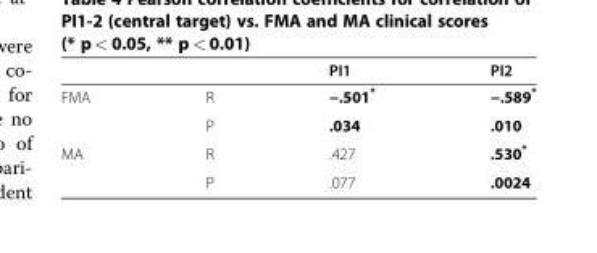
<table><thead><tr><td></td><td></td><td>PI1</td><td>PI2</td></tr></thead><tbody><tr><td rowspan="2">FMA</td><td>R</td><td>−.501*</td><td>−.589*</td></tr><tr><td>P</td><td>.034</td><td>.010</td></tr><tr><td rowspan="2">MA</td><td>R</td><td>.427</td><td>.530*</td></tr><tr><td>P</td><td>.077</td><td>.0024</td></tr></tbody></table>